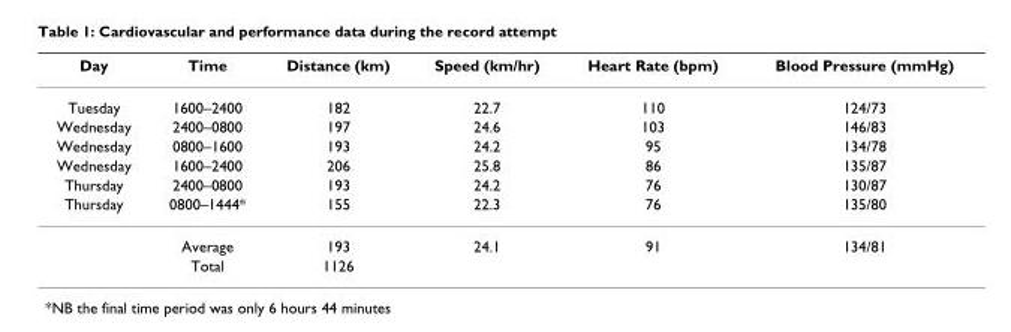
<table><thead><tr><td>Day</td><td>Time</td><td>Distance (km)</td><td>Speed (km/hr)</td><td>Heart Rate (bpm)</td><td>Blood Pressure (mmHg)</td></tr></thead><tbody><tr><td>Tuesday</td><td>1600–2400</td><td>182</td><td>22.7</td><td>110</td><td>124/73</td></tr><tr><td>Wednesday</td><td>2400–0800</td><td>197</td><td>24.6</td><td>103</td><td>146/83</td></tr><tr><td>Wednesday</td><td>0800–1600</td><td>193</td><td>24.2</td><td>95</td><td>134/78</td></tr><tr><td>Wednesday</td><td>1600–2400</td><td>206</td><td>25.8</td><td>86</td><td>135/87</td></tr><tr><td>Thursday</td><td>2400–0800</td><td>193</td><td>24.2</td><td>76</td><td>130/87</td></tr><tr><td rowspan="3">Thursday</td><td>0800–1444*</td><td>155</td><td>22.3</td><td>76</td><td>135/80</td></tr><tr><td>Average</td><td>193</td><td>24.1</td><td>91</td><td>134/81</td></tr><tr><td>Total</td><td>1126</td><td></td><td></td><td></td></tr></tbody></table>